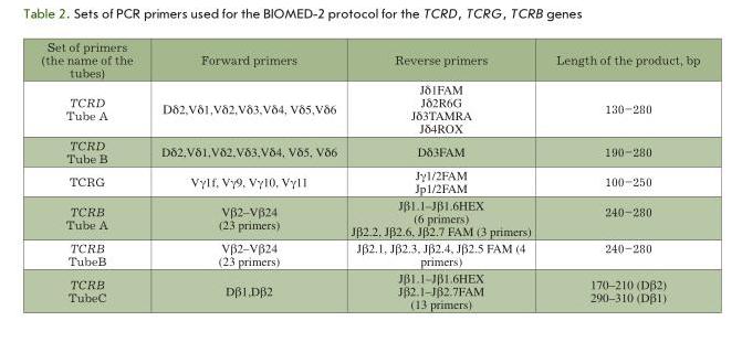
<table><thead><tr><td>Set of primers (the name of the tubes)</td><td>Forward primers</td><td>Reverse primers</td><td>Length of the product, bp</td></tr></thead><tbody><tr><td>TCRD Tube A</td><td>Dδ2,Vδ1,Vδ2,Vδ3,Vδ4, Vδ5,Vδ6</td><td>Jδ1FAM Jδ2R6G Jδ3TAMRA Jδ4ROX</td><td>130–280</td></tr><tr><td>TCRD Tube B</td><td>Dδ2,Vδ1,Vδ2,Vδ3,Vδ4, Vδ5, Vδ6</td><td>Dδ3FAM</td><td>190–280</td></tr><tr><td>TCRG</td><td>Vγ1f, Vγ9, Vγ10, Vγ11</td><td>Jγ1/2FAM Jp1/2FAM</td><td>100–250</td></tr><tr><td>TCRB Tube A</td><td>Vβ2–Vβ24 (23 primers)</td><td>Jβ1.1–Jβ1.6HEX (6 primers) Jβ2.2, Jβ2.6, Jβ2.7 FAM (3 primers)</td><td>240–280</td></tr><tr><td>TCRB TubeB</td><td>Vβ2–Vβ24 (23 primers)</td><td>Jβ2.1, Jβ2.3, Jβ2.4, Jβ2.5 FAM (4 primers)</td><td>240–280</td></tr><tr><td>TCRB TubeC</td><td>Dβ1,Dβ2</td><td>Jβ1.1–Jβ1.6HEX Jβ2.1–Jβ2.7FAM (13 primers)</td><td>170–210 (Dβ2) 290–310 (Dβ1)</td></tr></tbody></table>